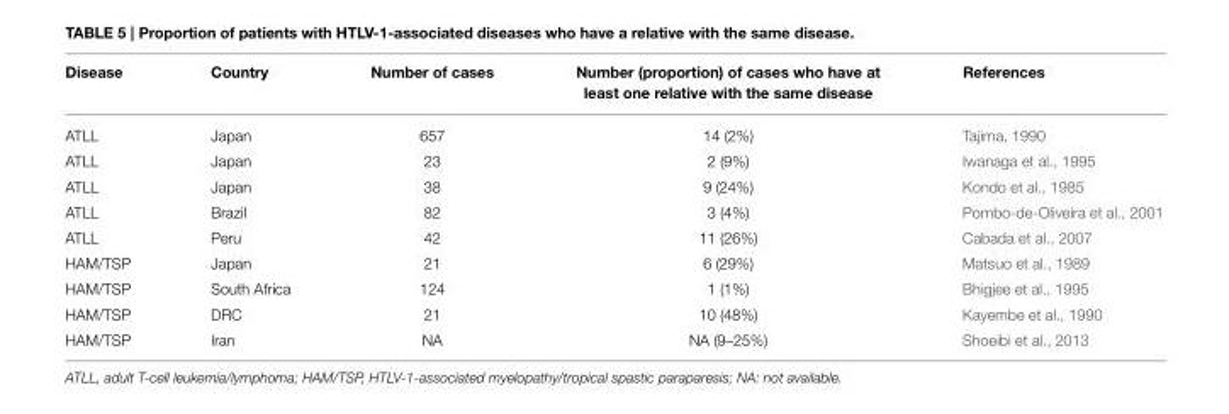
<table><thead><tr><td>Disease</td><td>Country</td><td>Number of cases</td><td>Number (proportion) of cases who have at least one relative with the same disease</td><td>References</td></tr></thead><tbody><tr><td>ATLL</td><td>Japan</td><td>657</td><td>14 (2%)</td><td>Tajima, 1990</td></tr><tr><td>ATLL</td><td>Japan</td><td>23</td><td>2 (9%)</td><td>Iwanaga et al., 1995</td></tr><tr><td>ATLL</td><td>Japan</td><td>38</td><td>9 (24%)</td><td>Kondo et al., 1985</td></tr><tr><td>ATLL</td><td>Brazil</td><td>82</td><td>3 (4%)</td><td>Pombo-de-Oliveira et al., 2001</td></tr><tr><td>ATLL</td><td>Peru</td><td>42</td><td>11 (26%)</td><td>Cabada et al., 2007</td></tr><tr><td>HAM/TSP</td><td>Japan</td><td>21</td><td>6 (29%)</td><td>Matsuo et al., 1989</td></tr><tr><td>HAM/TSP</td><td>South Africa</td><td>124</td><td>1 (1%)</td><td>Bhigjee et al., 1995</td></tr><tr><td>HAM/TSP</td><td>DRC</td><td>21</td><td>10 (48%)</td><td>Kayembe et al., 1990</td></tr><tr><td>HAM/TSP</td><td>Iran</td><td>NA</td><td>NA (9–25%)</td><td>Shoeibi et al., 2013</td></tr></tbody></table>